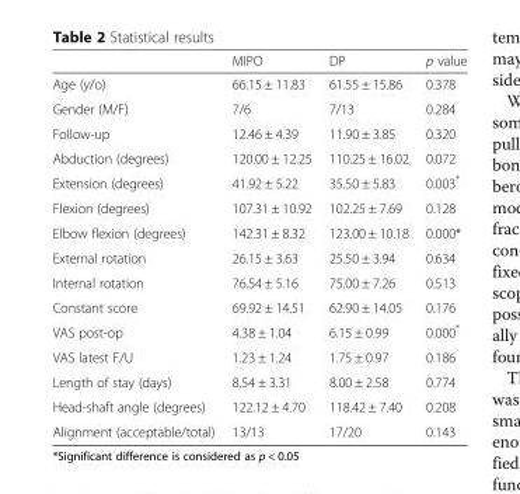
<table><thead><tr><td></td><td>MIPO</td><td>DP</td><td>p value</td></tr></thead><tbody><tr><td>Age (y/o)</td><td>66.15 ± 11.83</td><td>61.55 ± 15.86</td><td>0.378</td></tr><tr><td>Gender (M/F)</td><td>7/6</td><td>7/13</td><td>0.284</td></tr><tr><td>Follow-up</td><td>12.46 ± 4.39</td><td>11.90 ± 3.85</td><td>0.320</td></tr><tr><td>Abduction (degrees)</td><td>120.00 ± 12.25</td><td>110.25 ± 16.02</td><td>0.072</td></tr><tr><td>Extension (degrees)</td><td>41.92 ± 5.22</td><td>35.50 ± 5.83</td><td>0.003*</td></tr><tr><td>Flexion (degrees)</td><td>107.31 ± 10.92</td><td>102.25 ± 7.69</td><td>0.128</td></tr><tr><td>Elbow flexion (degrees)</td><td>142.31 ± 8.32</td><td>123.00 ± 10.18</td><td>0.000*</td></tr><tr><td>External rotation</td><td>26.15 ± 3.63</td><td>25.50 ± 3.94</td><td>0.634</td></tr><tr><td>Internal rotation</td><td>76.54 ± 5.16</td><td>75.00 ± 7.26</td><td>0.513</td></tr><tr><td>Constant score</td><td>69.92 ± 14.51</td><td>62.90 ± 14.05</td><td>0.176</td></tr><tr><td>VAS post-op</td><td>4.38 ± 1.04</td><td>6.15 ± 0.99</td><td>0.000*</td></tr><tr><td>VAS latest F/U</td><td>1.23 ± 1.24</td><td>1.75 ± 0.97</td><td>0.186</td></tr><tr><td>Length of stay (days)</td><td>8.54 ± 3.31</td><td>8.00 ± 2.58</td><td>0.774</td></tr><tr><td>Head-shaft angle (degrees)</td><td>122.12 ± 4.70</td><td>118.42 ± 7.40</td><td>0.208</td></tr><tr><td>Alignment (acceptable/total)</td><td>13/13</td><td>17/20</td><td>0.143</td></tr></tbody></table>